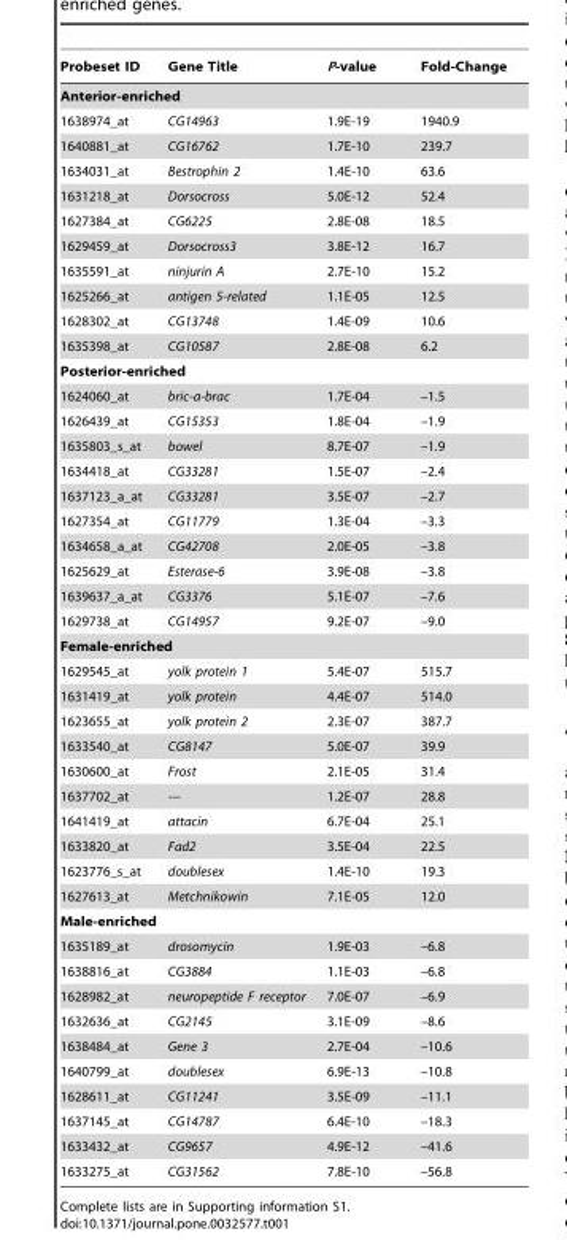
<table><thead><tr><td>Probeset ID</td><td>Gene Title</td><td>P-value</td><td>Fold-Change</td></tr></thead><tbody><tr><td colspan="4">Anterior-enriched</td></tr><tr><td>1638974_at</td><td>CG14963</td><td>1.9E-19</td><td>1940.9</td></tr><tr><td>1640881_at</td><td>CG16762</td><td>1.7E-10</td><td>239.7</td></tr><tr><td>1634031_at</td><td>Bestrophin 2</td><td>1.4E-10</td><td>63.6</td></tr><tr><td>1631218_at</td><td>Dorsocross</td><td>5.0E-12</td><td>52.4</td></tr><tr><td>1627384_at</td><td>CG6225</td><td>2.8E-08</td><td>18.5</td></tr><tr><td>1629459_at</td><td>Dorsocross3</td><td>3.8E-12</td><td>16.7</td></tr><tr><td>1635591_at</td><td>ninjurin A</td><td>2.7E-10</td><td>15.2</td></tr><tr><td>1625266_at</td><td>antigen 5-related</td><td>1.1E-05</td><td>12.5</td></tr><tr><td>1628302_at</td><td>CG13748</td><td>1.4E-09</td><td>10.6</td></tr><tr><td>1635398_at</td><td>CG10587</td><td>2.8E-08</td><td>6.2</td></tr><tr><td colspan="4">Posterior-enriched</td></tr><tr><td>1624060_at</td><td>bric-a-brac</td><td>1.7E-04</td><td>–1.5</td></tr><tr><td>1626439_at</td><td>CG15353</td><td>1.8E-04</td><td>–1.9</td></tr><tr><td>1635803_s_at</td><td>bowel</td><td>8.7E-07</td><td>–1.9</td></tr><tr><td>1634418_at</td><td>CG33281</td><td>1.5E-07</td><td>–2.4</td></tr><tr><td>1637123_a_at</td><td>CG33281</td><td>3.5E-07</td><td>–2.7</td></tr><tr><td>1627354_at</td><td>CG11779</td><td>1.3E-04</td><td>–3.3</td></tr><tr><td>1634658_a_at</td><td>CG42708</td><td>2.0E-05</td><td>–3.8</td></tr><tr><td>1625629_at</td><td>Esterase-6</td><td>3.9E-08</td><td>–3.8</td></tr><tr><td>1639637_a_at</td><td>CG3376</td><td>5.1E-07</td><td>–7.6</td></tr><tr><td>1629738_at</td><td>CG14957</td><td>9.2E-07</td><td>–9.0</td></tr><tr><td colspan="4">Female-enriched</td></tr><tr><td>1629545_at</td><td>yolk protein 1</td><td>5.4E-07</td><td>515.7</td></tr><tr><td>1631419_at</td><td>yolk protein</td><td>4.4E-07</td><td>514.0</td></tr><tr><td>1623655_at</td><td>yolk protein 2</td><td>2.3E-07</td><td>387.7</td></tr><tr><td>1633540_at</td><td>CG8147</td><td>5.0E-07</td><td>39.9</td></tr><tr><td>1630600_at</td><td>Frost</td><td>2.1E-05</td><td>31.4</td></tr><tr><td>1637702_at</td><td>---</td><td>1.2E-07</td><td>28.8</td></tr><tr><td>1641419_at</td><td>attacin</td><td>6.7E-04</td><td>25.1</td></tr><tr><td>1633820_at</td><td>Fad2</td><td>3.5E-04</td><td>22.5</td></tr><tr><td>1623776_s_at</td><td>doublesex</td><td>1.4E-10</td><td>19.3</td></tr><tr><td>1627613_at</td><td>Metchnikowin</td><td>7.1E-05</td><td>12.0</td></tr><tr><td colspan="4">Male-enriched</td></tr><tr><td>1635189_at</td><td>drosomycin</td><td>1.9E-03</td><td>–6.8</td></tr><tr><td>1638816_at</td><td>CG3884</td><td>1.1E-03</td><td>–6.8</td></tr><tr><td>1628982_at</td><td>neuropeptide F receptor</td><td>7.0E-07</td><td>–6.9</td></tr><tr><td>1632636_at</td><td>CG2145</td><td>3.1E-09</td><td>–8.6</td></tr><tr><td>1638484_at</td><td>Gene 3</td><td>2.7E-04</td><td>–10.6</td></tr><tr><td>1640799_at</td><td>doublesex</td><td>6.9E-13</td><td>–10.8</td></tr><tr><td>1628611_at</td><td>CG11241</td><td>3.5E-09</td><td>–11.1</td></tr><tr><td>1637145_at</td><td>CG14787</td><td>6.4E-10</td><td>–18.3</td></tr><tr><td>1633432_at</td><td>CG9657</td><td>4.9E-12</td><td>–41.6</td></tr><tr><td>1633275_at</td><td>CG31562</td><td>7.8E-10</td><td>–56.8</td></tr></tbody></table>